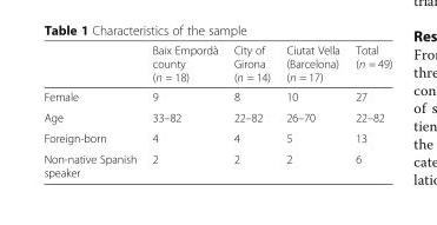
<table><thead><tr><td></td><td>Baix Empordà county (n = 18)</td><td>City of Girona (n = 14)</td><td>Ciutat Vella (Barcelona) (n = 17)</td><td>Total (n = 49)</td></tr></thead><tbody><tr><td>Female</td><td>9</td><td>8</td><td>10</td><td>27</td></tr><tr><td>Age</td><td>33–82</td><td>22–82</td><td>26–70</td><td>22–82</td></tr><tr><td>Foreign-born</td><td>4</td><td>4</td><td>5</td><td>13</td></tr><tr><td>Non-native Spanish speaker</td><td>2</td><td>2</td><td>2</td><td>6</td></tr></tbody></table>